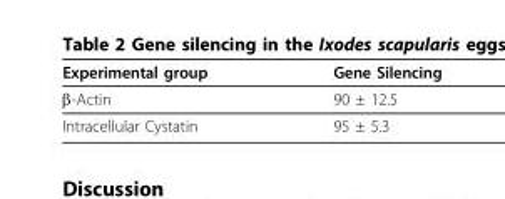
<table><thead><tr><td>Experimental group</td><td>Gene Silencing</td></tr></thead><tbody><tr><td>β-Actin</td><td>90 ± 12.5</td></tr><tr><td>Intracellular Cystatin</td><td>95 ± 5.3</td></tr></tbody></table>